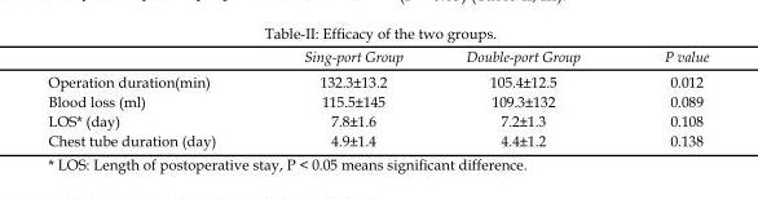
<table><thead><tr><td></td><td>Sing-port Group</td><td>Double-port Group</td><td>P value</td></tr></thead><tbody><tr><td>Operation duration(min)</td><td>132.3±13.2</td><td>105.4±12.5</td><td>0.012</td></tr><tr><td>Blood loss (ml)</td><td>115.5±145</td><td>109.3±132</td><td>0.089</td></tr><tr><td>LOS* (day)</td><td>7.8±1.6</td><td>7.2±1.3</td><td>0.108</td></tr><tr><td>Chest tube duration (day)</td><td>4.9±1.4</td><td>4.4±1.2</td><td>0.138</td></tr></tbody></table>